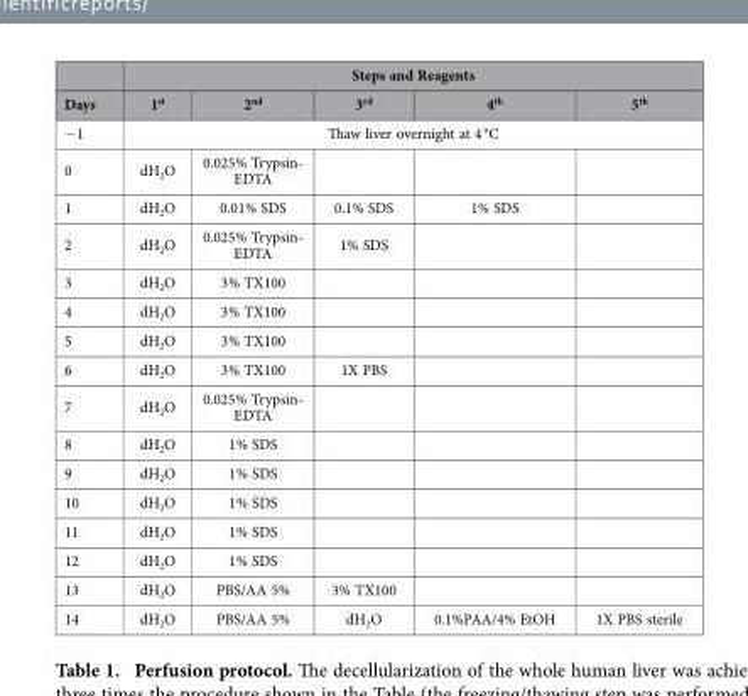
<table><thead><tr><td rowspan="2">Days</td><td colspan="5">Steps and Reagents</td></tr><tr><td>1<sup>st</sup></td><td>2<sup>nd</sup></td><td>3<sup>rd</sup></td><td>4<sup>th</sup></td><td>5<sup>th</sup></td></tr></thead><tbody><tr><td>− 1</td><td colspan="5">Thaw liver overnight at 4 °C</td></tr><tr><td>0</td><td>dH<sub>2</sub>O</td><td>0.025% Trypsin- EDTA</td><td></td><td></td><td></td></tr><tr><td>1</td><td>dH<sub>2</sub>O</td><td>0.01% SDS</td><td>0.1% SDS</td><td>1% SDS</td><td></td></tr><tr><td>2</td><td>dH<sub>2</sub>O</td><td>0.025% Trypsin- EDTA</td><td>1% SDS</td><td></td><td></td></tr><tr><td>3</td><td>dH<sub>2</sub>O</td><td>3% TX100</td><td></td><td></td><td></td></tr><tr><td>4</td><td>dH<sub>2</sub>O</td><td>3% TX100</td><td></td><td></td><td></td></tr><tr><td>5</td><td>dH<sub>2</sub>O</td><td>3% TX100</td><td></td><td></td><td></td></tr><tr><td>6</td><td>dH<sub>2</sub>O</td><td>3% TX100</td><td>1X PBS</td><td></td><td></td></tr><tr><td>7</td><td>dH<sub>2</sub>O</td><td>0.025% Trypsin- EDTA</td><td></td><td></td><td></td></tr><tr><td>8</td><td>dH<sub>2</sub>O</td><td>1% SDS</td><td></td><td></td><td></td></tr><tr><td>9</td><td>dH<sub>2</sub>O</td><td>1% SDS</td><td></td><td></td><td></td></tr><tr><td>10</td><td>dH<sub>2</sub>O</td><td>1% SDS</td><td></td><td></td><td></td></tr><tr><td>11</td><td>dH<sub>2</sub>O</td><td>1% SDS</td><td></td><td></td><td></td></tr><tr><td>12</td><td>dH<sub>2</sub>O</td><td>1% SDS</td><td></td><td></td><td></td></tr><tr><td>13</td><td>dH<sub>2</sub>O</td><td>PBS/AA 5%</td><td>3% TX100</td><td></td><td></td></tr><tr><td>14</td><td>dH<sub>2</sub>O</td><td>PBS/AA 5%</td><td>dH<sub>2</sub>O</td><td>0.1%PAA/4% EtOH</td><td>1X PBS sterile</td></tr></tbody></table>